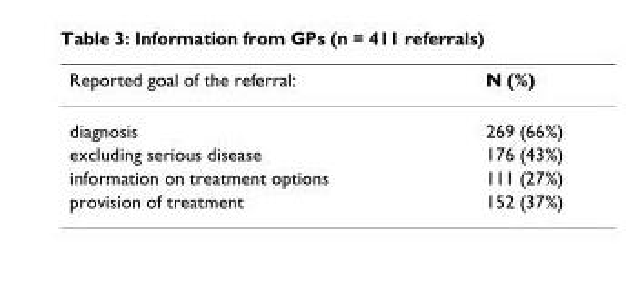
<table><thead><tr><td>Reported goal of the referral:</td><td>N (%)</td></tr></thead><tbody><tr><td>diagnosis</td><td>269 (66%)</td></tr><tr><td>excluding serious disease</td><td>176 (43%)</td></tr><tr><td>information on treatment options</td><td>111 (27%)</td></tr><tr><td>provision of treatment</td><td>152 (37%)</td></tr></tbody></table>